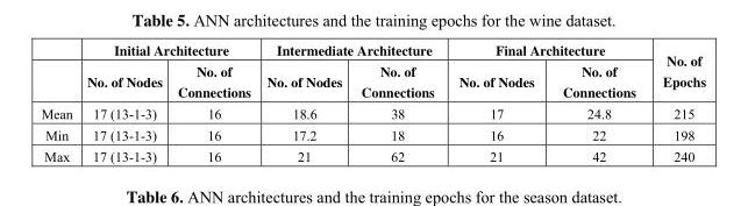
<table><thead><tr><td rowspan="2"></td><td colspan="2">Initial Architecture</td><td colspan="2">Intermediate Architecture</td><td colspan="2">Final Architecture</td><td rowspan="2">No. of Epochs</td></tr><tr><td>No. of Nodes</td><td>No. of Connections</td><td>No. of Nodes</td><td>No. of Connections</td><td>No. of Nodes</td><td>No. of Connections</td></tr></thead><tbody><tr><td>Mean</td><td>17 (13-1-3)</td><td>16</td><td>18.6</td><td>38</td><td>17</td><td>24.8</td><td>215</td></tr><tr><td>Min</td><td>17 (13-1-3)</td><td>16</td><td>17.2</td><td>18</td><td>16</td><td>22</td><td>198</td></tr><tr><td>Max</td><td>17 (13-1-3)</td><td>16</td><td>21</td><td>62</td><td>21</td><td>42</td><td>240</td></tr></tbody></table>